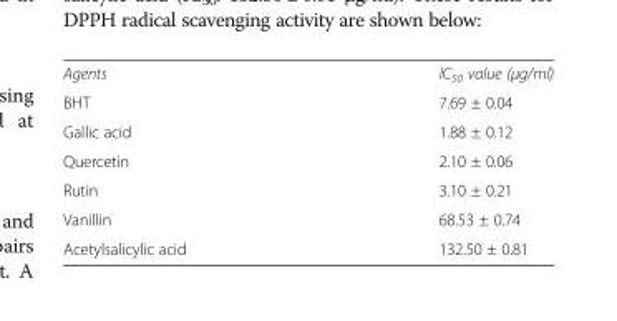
<table><tbody><tr><td>Agents</td><td>IC<sub>50</sub> value (μg/ml)</td></tr><tr><td>BHT</td><td>7.69 ± 0.04</td></tr><tr><td>Gallic acid</td><td>1.88 ± 0.12</td></tr><tr><td>Quercetin</td><td>2.10 ± 0.06</td></tr><tr><td>Rutin</td><td>3.10 ± 0.21</td></tr><tr><td>Vanillin</td><td>68.53 ± 0.74</td></tr><tr><td>Acetylsalicylic acid</td><td>132.50 ± 0.81</td></tr></tbody></table>